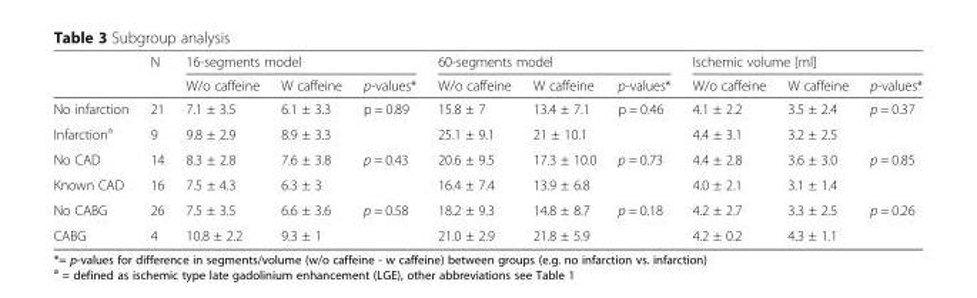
<table><thead><tr><td rowspan="2"></td><td rowspan="2">N</td><td colspan="3">16-segments model</td><td colspan="3">60-segments model</td><td colspan="3">Ischemic volume [ml]</td></tr><tr><td>W/o caffeine</td><td>W caffeine</td><td>p-values*</td><td>W/o caffeine</td><td>W caffeine</td><td>p-values*</td><td>W/o caffeine</td><td>W caffeine</td><td>p-values*</td></tr></thead><tbody><tr><td>No infarction</td><td>21</td><td>7.1 ± 3.5</td><td>6.1 ± 3.3</td><td rowspan="2">p = 0.89</td><td>15.8 ± 7</td><td>13.4 ± 7.1</td><td rowspan="2">p = 0.46</td><td>4.1 ± 2.2</td><td>3.5 ± 2.4</td><td rowspan="2">p = 0.37</td></tr><tr><td>Infarction<sup>a</sup></td><td>9</td><td>9.8 ± 2.9</td><td>8.9 ± 3.3</td><td>25.1 ± 9.1</td><td>21 ± 10.1</td><td>4.4 ± 3.1</td><td>3.2 ± 2.5</td></tr><tr><td>No CAD</td><td>14</td><td>8.3 ± 2.8</td><td>7.6 ± 3.8</td><td rowspan="2">p = 0.43</td><td>20.6 ± 9.5</td><td>17.3 ± 10.0</td><td rowspan="2">p = 0.73</td><td>4.4 ± 2.8</td><td>3.6 ± 3.0</td><td rowspan="2">p = 0.85</td></tr><tr><td>Known CAD</td><td>16</td><td>7.5 ± 4.3</td><td>6.3 ± 3</td><td>16.4 ± 7.4</td><td>13.9 ± 6.8</td><td>4.0 ± 2.1</td><td>3.1 ± 1.4</td></tr><tr><td>No CABG</td><td>26</td><td>7.5 ± 3.5</td><td>6.6 ± 3.6</td><td rowspan="2">p = 0.58</td><td>18.2 ± 9.3</td><td>14.8 ± 8.7</td><td rowspan="2">p = 0.18</td><td>4.2 ± 2.7</td><td>3.3 ± 2.5</td><td rowspan="2">p = 0.26</td></tr><tr><td>CABG</td><td>4</td><td>10.8 ± 2.2</td><td>9.3 ± 1</td><td>21.0 ± 2.9</td><td>21.8 ± 5.9</td><td>4.2 ± 0.2</td><td>4.3 ± 1.1</td></tr></tbody></table>